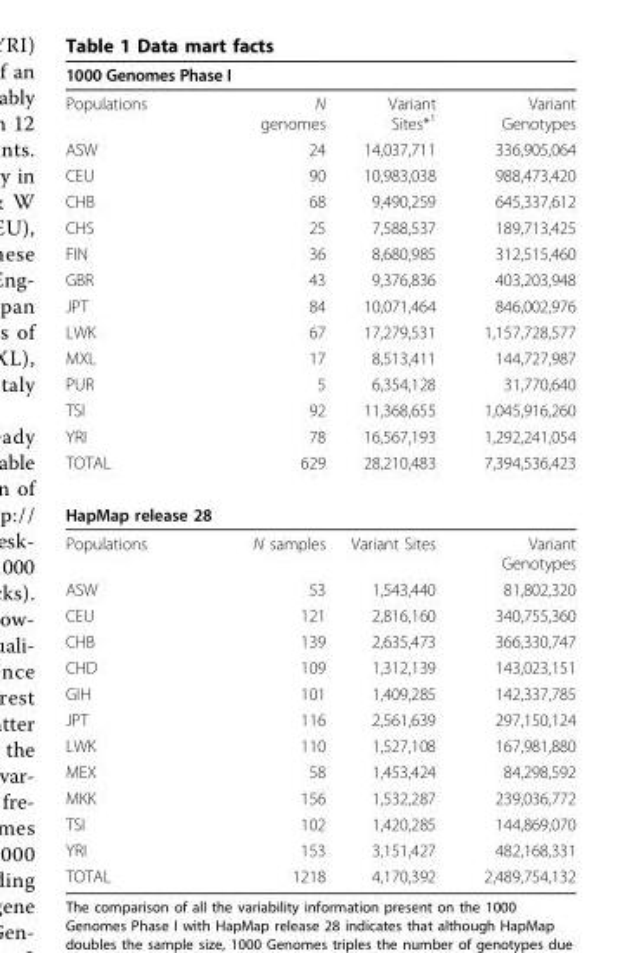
<table><thead><tr><td>1000 Genomes Phase I</td><td></td><td></td><td></td></tr></thead><tbody><tr><td>Populations</td><td>N genomes</td><td>Variant Sites*<sup>1</sup></td><td>Variant Genotypes</td></tr><tr><td>ASW</td><td>24</td><td>14,037,711</td><td>336,905,064</td></tr><tr><td>CEU</td><td>90</td><td>10,983,038</td><td>988,473,420</td></tr><tr><td>CHB</td><td>68</td><td>9,490,259</td><td>645,337,612</td></tr><tr><td>CHS</td><td>25</td><td>7,588,537</td><td>189,713,425</td></tr><tr><td>FIN</td><td>36</td><td>8,680,985</td><td>312,515,460</td></tr><tr><td>GBR</td><td>43</td><td>9,376,836</td><td>403,203,948</td></tr><tr><td>JPT</td><td>84</td><td>10,071,464</td><td>846,002,976</td></tr><tr><td>LWK</td><td>67</td><td>17,279,531</td><td>1,157,728,577</td></tr><tr><td>MXL</td><td>17</td><td>8,513,411</td><td>144,727,987</td></tr><tr><td>PUR</td><td>5</td><td>6,354,128</td><td>31,770,640</td></tr><tr><td>TSI</td><td>92</td><td>11,368,655</td><td>1,045,916,260</td></tr><tr><td>YRI</td><td>78</td><td>16,567,193</td><td>1,292,241,054</td></tr><tr><td>TOTAL</td><td>629</td><td>28,210,483</td><td>7,394,536,423</td></tr><tr><td colspan="4">HapMap release 28</td></tr><tr><td>Populations</td><td>N samples</td><td>Variant Sites</td><td>Variant Genotypes</td></tr><tr><td>ASW</td><td>53</td><td>1,543,440</td><td>81,802,320</td></tr><tr><td>CEU</td><td>121</td><td>2,816,160</td><td>340,755,360</td></tr><tr><td>CHB</td><td>139</td><td>2,635,473</td><td>366,330,747</td></tr><tr><td>CHD</td><td>109</td><td>1,312,139</td><td>143,023,151</td></tr><tr><td>GIH</td><td>101</td><td>1,409,285</td><td>142,337,785</td></tr><tr><td>JPT</td><td>116</td><td>2,561,639</td><td>297,150,124</td></tr><tr><td>LWK</td><td>110</td><td>1,527,108</td><td>167,981,880</td></tr><tr><td>MEX</td><td>58</td><td>1,453,424</td><td>84,298,592</td></tr><tr><td>MKK</td><td>156</td><td>1,532,287</td><td>239,036,772</td></tr><tr><td>TSI</td><td>102</td><td>1,420,285</td><td>144,869,070</td></tr><tr><td>YRI</td><td>153</td><td>3,151,427</td><td>482,168,331</td></tr><tr><td>TOTAL</td><td>1218</td><td>4,170,392</td><td>2,489,754,132</td></tr></tbody></table>